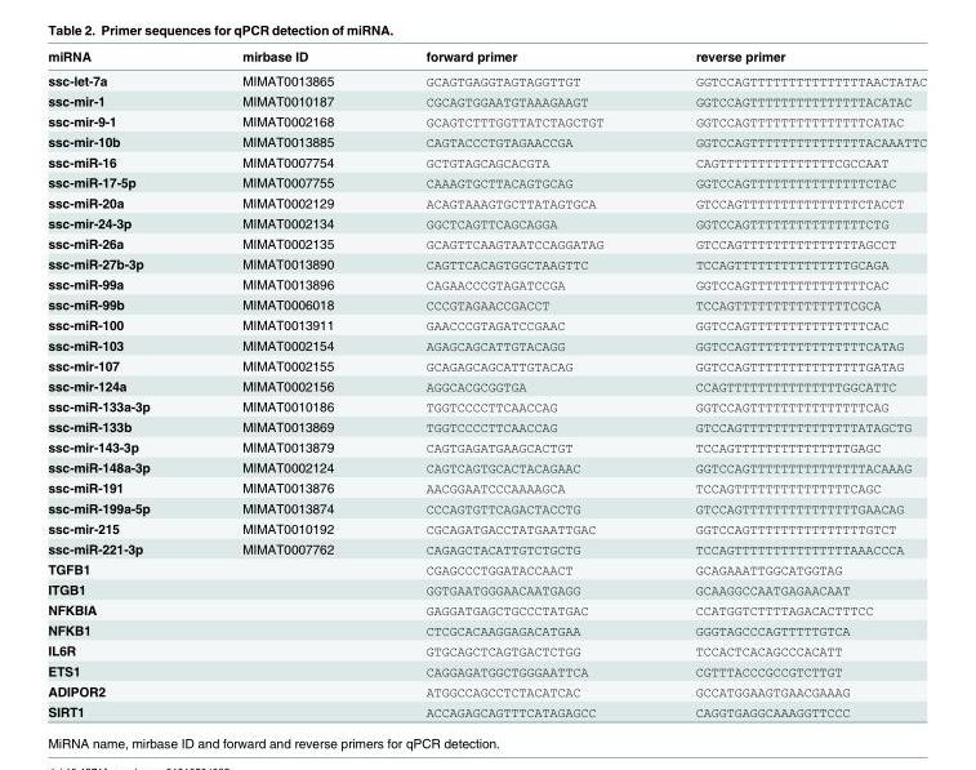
<table><thead><tr><td>miRNA</td><td>mirbase ID</td><td>forward primer</td><td>reverse primer</td></tr></thead><tbody><tr><td>ssc-let-7a</td><td>MIMAT0013865</td><td>GCAGTGAGGTAGTAGGTTGT</td><td>GGTCCAGTTTTTTTTTTTTTTTAACTATAC</td></tr><tr><td>ssc-mir-1</td><td>MIMAT0010187</td><td>CGCAGTGGAATGTAAAGAAGT</td><td>GGTCCAGTTTTTTTTTTTTTTTACATAC</td></tr><tr><td>ssc-mir-9-1</td><td>MIMAT0002168</td><td>GCAGTCTTTGGTTATCTAGCTGT</td><td>GGTCCAGTTTTTTTTTTTTTTTCATAC</td></tr><tr><td>ssc-mir-10b</td><td>MIMAT0013885</td><td>CAGTACCCTGTAGAACCGA</td><td>GGTCCAGTTTTTTTTTTTTTTTACAAATTC</td></tr><tr><td>ssc-miR-16</td><td>MIMAT0007754</td><td>GCTGTAGCAGCACGTA</td><td>CAGTTTTTTTTTTTTTTTCGCCAAT</td></tr><tr><td>ssc-miR-17-5p</td><td>MIMAT0007755</td><td>CAAAGTGCTTACAGTGCAG</td><td>GGTCCAGTTTTTTTTTTTTTTTCTAC</td></tr><tr><td>ssc-miR-20a</td><td>MIMAT0002129</td><td>ACAGTAAAGTGCTTATAGTGCA</td><td>GTCCAGTTTTTTTTTTTTTTTCTACCT</td></tr><tr><td>ssc-mir-24-3p</td><td>MIMAT0002134</td><td>GGCTCAGTTCAGCAGGA</td><td>GGTCCAGTTTTTTTTTTTTTTTCTG</td></tr><tr><td>ssc-miR-26a</td><td>MIMAT0002135</td><td>GCAGTTCAAGTAATCCAGGATAG</td><td>GTCCAGTTTTTTTTTTTTTTTAGCCT</td></tr><tr><td>ssc-miR-27b-3p</td><td>MIMAT0013890</td><td>CAGTTCACAGTGGCTAAGTTC</td><td>TCCAGTTTTTTTTTTTTTTTGCAGA</td></tr><tr><td>ssc-miR-99a</td><td>MIMAT0013896</td><td>CAGAACCCGTAGATCCGA</td><td>GGTCCAGTTTTTTTTTTTTTTTCAC</td></tr><tr><td>ssc-miR-99b</td><td>MIMAT0006018</td><td>CCCGTAGAACCGACCT</td><td>TCCAGTTTTTTTTTTTTTTTCGCA</td></tr><tr><td>ssc-miR-100</td><td>MIMAT0013911</td><td>GAACCCGTAGATCCGAAC</td><td>GGTCCAGTTTTTTTTTTTTTTTCAC</td></tr><tr><td>ssc-miR-103</td><td>MIMAT0002154</td><td>AGAGCAGCATTGTACAGG</td><td>GGTCCAGTTTTTTTTTTTTTTTCATAG</td></tr><tr><td>ssc-mir-107</td><td>MIMAT0002155</td><td>GCAGAGCAGCATTGTACAG</td><td>GGTCCAGTTTTTTTTTTTTTTTGATAG</td></tr><tr><td>ssc-mir-124a</td><td>MIMAT0002156</td><td>AGGCACGCGGTGA</td><td>CCAGTTTTTTTTTTTTTTTGGCATTC</td></tr><tr><td>ssc-miR-133a-3p</td><td>MIMAT0010186</td><td>TGGTCCCCTTCAACCAG</td><td>GGTCCAGTTTTTTTTTTTTTTTCAG</td></tr><tr><td>ssc-miR-133b</td><td>MIMAT0013869</td><td>TGGTCCCCTTCAACCAG</td><td>GTCCAGTTTTTTTTTTTTTTTATAGCTG</td></tr><tr><td>ssc-mir-143-3p</td><td>MIMAT0013879</td><td>CAGTGAGATGAAGCACTGT</td><td>TCCAGTTTTTTTTTTTTTTTGAGC</td></tr><tr><td>ssc-miR-148a-3p</td><td>MIMAT0002124</td><td>CAGTCAGTGCACTACAGAAC</td><td>GGTCCAGTTTTTTTTTTTTTTTACAAAG</td></tr><tr><td>ssc-miR-191</td><td>MIMAT0013876</td><td>AACGGAATCCCAAAAGCA</td><td>TCCAGTTTTTTTTTTTTTTTCAGC</td></tr><tr><td>ssc-miR-199a-5p</td><td>MIMAT0013874</td><td>CCCAGTGTTCAGACTACCTG</td><td>GTCCAGTTTTTTTTTTTTTTTGAACAG</td></tr><tr><td>ssc-mir-215</td><td>MIMAT0010192</td><td>CGCAGATGACCTATGAATTGAC</td><td>GGTCCAGTTTTTTTTTTTTTTTGTCT</td></tr><tr><td>ssc-miR-221-3p</td><td>MIMAT0007762</td><td>CAGAGCTACATTGTCTGCTG</td><td>TCCAGTTTTTTTTTTTTTTTAAACCCA</td></tr><tr><td>TGFB1</td><td></td><td>CGAGCCCTGGATACCAACT</td><td>GCAGAAATTGGCATGGTAG</td></tr><tr><td>ITGB1</td><td></td><td>GGTGAATGGGAACAATGAGG</td><td>GCAAGGCCAATGAGAACAAT</td></tr><tr><td>NFKBIA</td><td></td><td>GAGGATGAGCTGCCCTATGAC</td><td>CCATGGTCTTTTAGACACTTTCC</td></tr><tr><td>NFKB1</td><td></td><td>CTCGCACAAGGAGACATGAA</td><td>GGGTAGCCCAGTTTTTGTCA</td></tr><tr><td>IL6R</td><td></td><td>GTGCAGCTCAGTGACTCTGG</td><td>TCCACTCACAGCCCACATT</td></tr><tr><td>ETS1</td><td></td><td>CAGGAGATGGCTGGGAATTCA</td><td>CGTTTACCCGCCGTCTTGT</td></tr><tr><td>ADIPOR2</td><td></td><td>ATGGCCAGCCTCTACATCAC</td><td>GCCATGGAAGTGAACGAAAG</td></tr><tr><td>SIRT1</td><td></td><td>ACCAGAGCAGTTTCATAGAGCC</td><td>CAGGTGAGGCAAAGGTTCCC</td></tr></tbody></table>